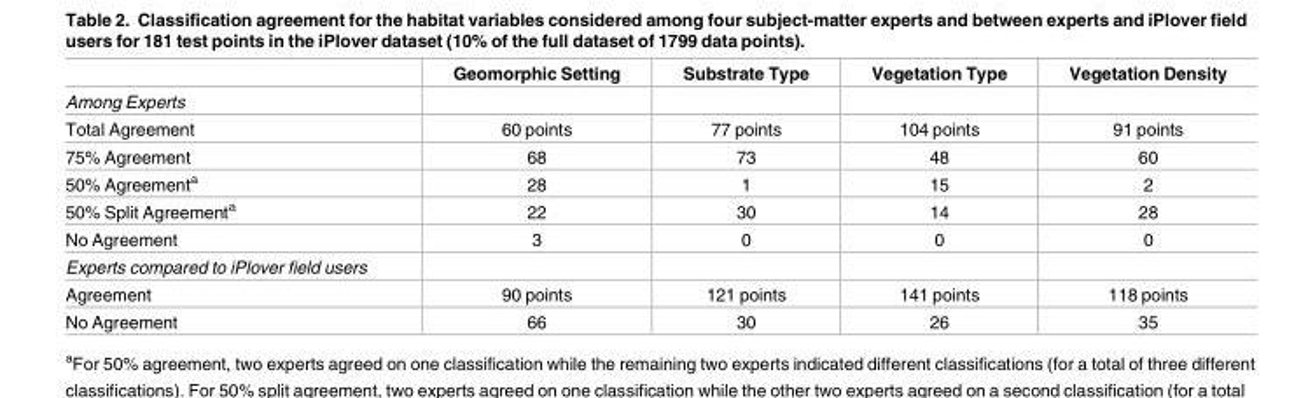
<table><thead><tr><td></td><td>Geomorphic Setting</td><td>Substrate Type</td><td>Vegetation Type</td><td>Vegetation Density</td></tr></thead><tbody><tr><td colspan="5">Among Experts</td></tr><tr><td>Total Agreement</td><td>60 points</td><td>77 points</td><td>104 points</td><td>91 points</td></tr><tr><td>75% Agreement</td><td>68</td><td>73</td><td>48</td><td>60</td></tr><tr><td>50% Agreement<sup>a</sup></td><td>28</td><td>1</td><td>15</td><td>2</td></tr><tr><td>50% Split Agreement<sup>a</sup></td><td>22</td><td>30</td><td>14</td><td>28</td></tr><tr><td>No Agreement</td><td>3</td><td>0</td><td>0</td><td>0</td></tr><tr><td colspan="5">Experts compared to iPlover field users</td></tr><tr><td>Agreement</td><td>90 points</td><td>121 points</td><td>141 points</td><td>118 points</td></tr><tr><td>No Agreement</td><td>66</td><td>30</td><td>26</td><td>35</td></tr></tbody></table>